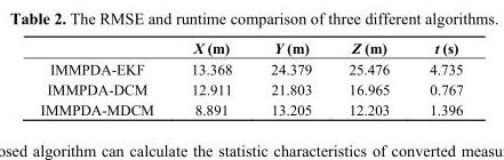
<table><thead><tr><td></td><td>X (m)</td><td>Y (m)</td><td>Z (m)</td><td>t (s)</td></tr></thead><tbody><tr><td>IMMPDA-EKF</td><td>13.368</td><td>24.379</td><td>25.476</td><td>4.735</td></tr><tr><td>IMMPDA-DCM</td><td>12.911</td><td>21.803</td><td>16.965</td><td>0.767</td></tr><tr><td>IMMPDA-MDCM</td><td>8.891</td><td>13.205</td><td>12.203</td><td>1.396</td></tr></tbody></table>